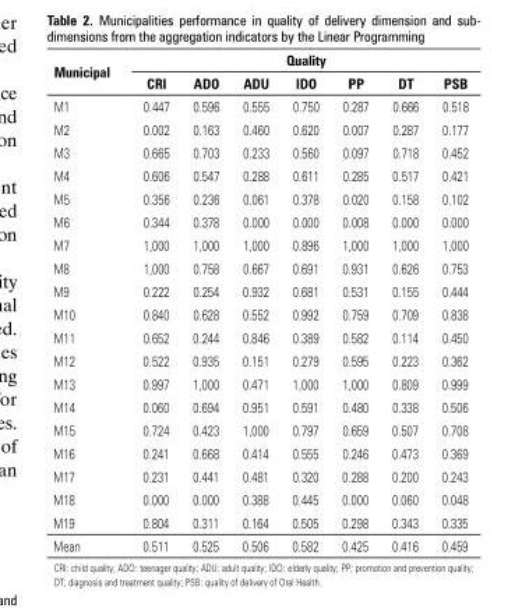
<table><thead><tr><td rowspan="2">municipal</td><td colspan="7">Quality</td></tr><tr><td>cRi</td><td>ado</td><td>adU</td><td>ido</td><td>PP</td><td>dt</td><td>PsB</td></tr></thead><tbody><tr><td>M1</td><td>0.447</td><td>0.596</td><td>0.555</td><td>0.750</td><td>0.287</td><td>0.666</td><td>0.518</td></tr><tr><td>M2</td><td>0.002</td><td>0.163</td><td>0.460</td><td>0.620</td><td>0.007</td><td>0.287</td><td>0.177</td></tr><tr><td>M3</td><td>0.665</td><td>0.703</td><td>0.233</td><td>0.560</td><td>0.097</td><td>0.718</td><td>0.452</td></tr><tr><td>M4</td><td>0.606</td><td>0.547</td><td>0.288</td><td>0.611</td><td>0.285</td><td>0.517</td><td>0.421</td></tr><tr><td>M5</td><td>0.356</td><td>0.236</td><td>0.061</td><td>0.378</td><td>0.020</td><td>0.158</td><td>0.102</td></tr><tr><td>M6</td><td>0.344</td><td>0.378</td><td>0.000</td><td>0.000</td><td>0.008</td><td>0.000</td><td>0.000</td></tr><tr><td>M7</td><td>1,000</td><td>1,000</td><td>1,000</td><td>0.896</td><td>1,000</td><td>1,000</td><td>1,000</td></tr><tr><td>M8</td><td>1,000</td><td>0.758</td><td>0.667</td><td>0.691</td><td>0.931</td><td>0.626</td><td>0.753</td></tr><tr><td>M9</td><td>0.222</td><td>0.254</td><td>0.932</td><td>0.681</td><td>0.531</td><td>0.155</td><td>0.444</td></tr><tr><td>M10</td><td>0.840</td><td>0.628</td><td>0.552</td><td>0.992</td><td>0.759</td><td>0.709</td><td>0.838</td></tr><tr><td>M11</td><td>0.652</td><td>0.244</td><td>0.846</td><td>0.389</td><td>0.582</td><td>0.114</td><td>0.450</td></tr><tr><td>M12</td><td>0.522</td><td>0.935</td><td>0.151</td><td>0.279</td><td>0.595</td><td>0.223</td><td>0.362</td></tr><tr><td>M13</td><td>0.997</td><td>1,000</td><td>0.471</td><td>1,000</td><td>1,000</td><td>0.809</td><td>0.999</td></tr><tr><td>M14</td><td>0.060</td><td>0.694</td><td>0.951</td><td>0.591</td><td>0.480</td><td>0.338</td><td>0.506</td></tr><tr><td>M15</td><td>0.724</td><td>0.423</td><td>1,000</td><td>0.797</td><td>0.659</td><td>0.507</td><td>0.708</td></tr><tr><td>M16</td><td>0.241</td><td>0.668</td><td>0.414</td><td>0.555</td><td>0.246</td><td>0.473</td><td>0.369</td></tr><tr><td>M17</td><td>0.231</td><td>0.441</td><td>0.481</td><td>0.320</td><td>0.288</td><td>0.200</td><td>0.243</td></tr><tr><td>M18</td><td>0.000</td><td>0.000</td><td>0.388</td><td>0.445</td><td>0.000</td><td>0.060</td><td>0.048</td></tr><tr><td>M19</td><td>0.804</td><td>0.311</td><td>0.164</td><td>0.505</td><td>0.298</td><td>0.343</td><td>0.335</td></tr><tr><td>Mean</td><td>0.511</td><td>0.525</td><td>0.506</td><td>0.582</td><td>0.425</td><td>0.416</td><td>0.459</td></tr></tbody></table>